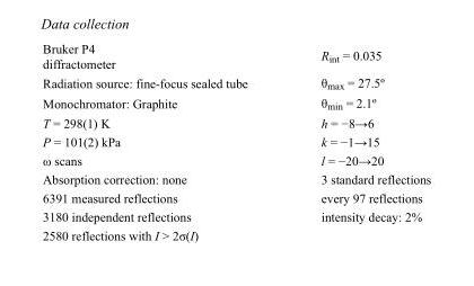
<table><tbody><tr><td>Bruker P4 diffractometer</td><td>R<sub>int</sub> = 0.035</td></tr><tr><td>Radiation source: fine-focus sealed tube</td><td>θ<sub>max</sub> = 27.5º</td></tr><tr><td>Monochromator: Graphite</td><td>θ<sub>min</sub> = 2.1º</td></tr><tr><td>T = 298(1) K</td><td>h = −8→6</td></tr><tr><td>P = 101(2) kPa</td><td>k = −1→15</td></tr><tr><td>ω scans</td><td>l = −20→20</td></tr><tr><td>Absorption correction: none</td><td>3 standard reflections</td></tr><tr><td>6391 measured reflections</td><td>every 97 reflections</td></tr><tr><td>3180 independent reflections</td><td>intensity decay: 2%</td></tr><tr><td>2580 reflections with I &gt; 2σ(I)</td><td></td></tr></tbody></table>